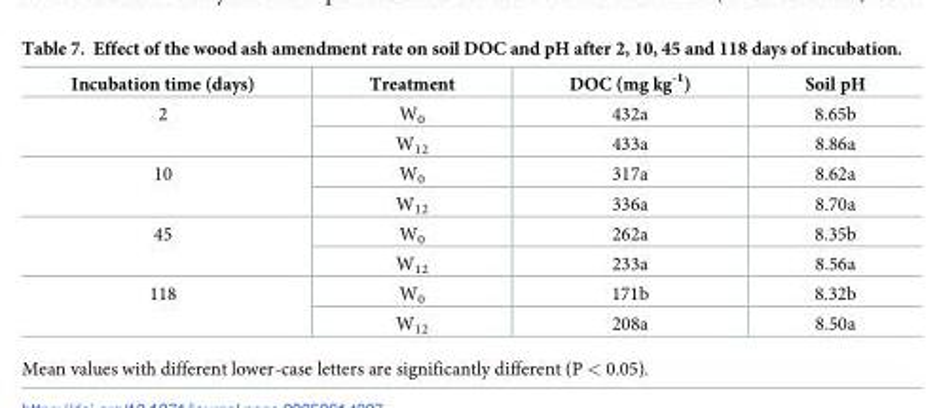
<table><thead><tr><td>Incubation time (days)</td><td>Treatment</td><td>DOC (mg kg<sup>-1</sup>)</td><td>Soil pH</td></tr></thead><tbody><tr><td rowspan="2">2</td><td>W<sub>0</sub></td><td>432a</td><td>8.65b</td></tr><tr><td>W<sub>12</sub></td><td>433a</td><td>8.86a</td></tr><tr><td rowspan="2">10</td><td>W<sub>0</sub></td><td>317a</td><td>8.62a</td></tr><tr><td>W<sub>12</sub></td><td>336a</td><td>8.70a</td></tr><tr><td rowspan="2">45</td><td>W<sub>0</sub></td><td>262a</td><td>8.35b</td></tr><tr><td>W<sub>12</sub></td><td>233a</td><td>8.56a</td></tr><tr><td rowspan="2">118</td><td>W<sub>0</sub></td><td>171b</td><td>8.32b</td></tr><tr><td>W<sub>12</sub></td><td>208a</td><td>8.50a</td></tr></tbody></table>